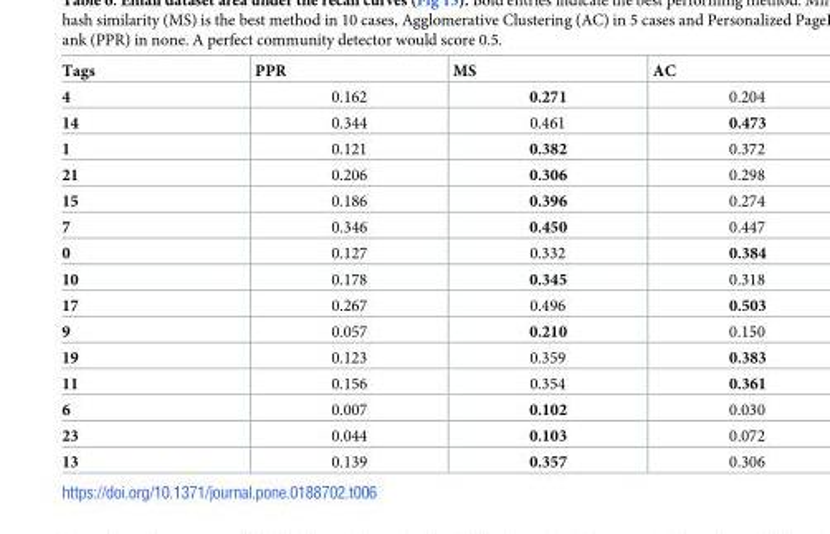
<table><thead><tr><td>Tags</td><td>PPR</td><td>MS</td><td>AC</td></tr></thead><tbody><tr><td>4</td><td>0.162</td><td>0.271</td><td>0.204</td></tr><tr><td>14</td><td>0.344</td><td>0.461</td><td>0.473</td></tr><tr><td>1</td><td>0.121</td><td>0.382</td><td>0.372</td></tr><tr><td>21</td><td>0.206</td><td>0.306</td><td>0.298</td></tr><tr><td>15</td><td>0.186</td><td>0.396</td><td>0.274</td></tr><tr><td>7</td><td>0.346</td><td>0.450</td><td>0.447</td></tr><tr><td>0</td><td>0.127</td><td>0.332</td><td>0.384</td></tr><tr><td>10</td><td>0.178</td><td>0.345</td><td>0.318</td></tr><tr><td>17</td><td>0.267</td><td>0.496</td><td>0.503</td></tr><tr><td>9</td><td>0.057</td><td>0.210</td><td>0.150</td></tr><tr><td>19</td><td>0.123</td><td>0.359</td><td>0.383</td></tr><tr><td>11</td><td>0.156</td><td>0.354</td><td>0.361</td></tr><tr><td>6</td><td>0.007</td><td>0.102</td><td>0.030</td></tr><tr><td>23</td><td>0.044</td><td>0.103</td><td>0.072</td></tr><tr><td>13</td><td>0.139</td><td>0.357</td><td>0.306</td></tr></tbody></table>